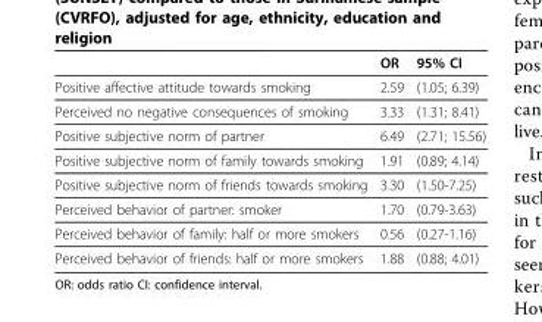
<table><thead><tr><td></td><td>OR</td><td>95% CI</td></tr></thead><tbody><tr><td>Positive affective attitude towards smoking</td><td>2.59</td><td>(1.05; 6.39)</td></tr><tr><td>Perceived no negative consequences of smoking</td><td>3.33</td><td>(1.31; 8.41)</td></tr><tr><td>Positive subjective norm of partner</td><td>6.49</td><td>(2.71; 15.56)</td></tr><tr><td>Positive subjective norm of family towards smoking</td><td>1.91</td><td>(0.89; 4.14)</td></tr><tr><td>Positive subjective norm of friends towards smoking</td><td>3.30</td><td>(1.50-7.25)</td></tr><tr><td>Perceived behavior of partner: smoker</td><td>1.70</td><td>(0.79-3.63)</td></tr><tr><td>Perceived behavior of family: half or more smokers</td><td>0.56</td><td>(0.27-1.16)</td></tr><tr><td>Perceived behavior of friends: half or more smokers</td><td>1.88</td><td>(0.88; 4.01)</td></tr></tbody></table>